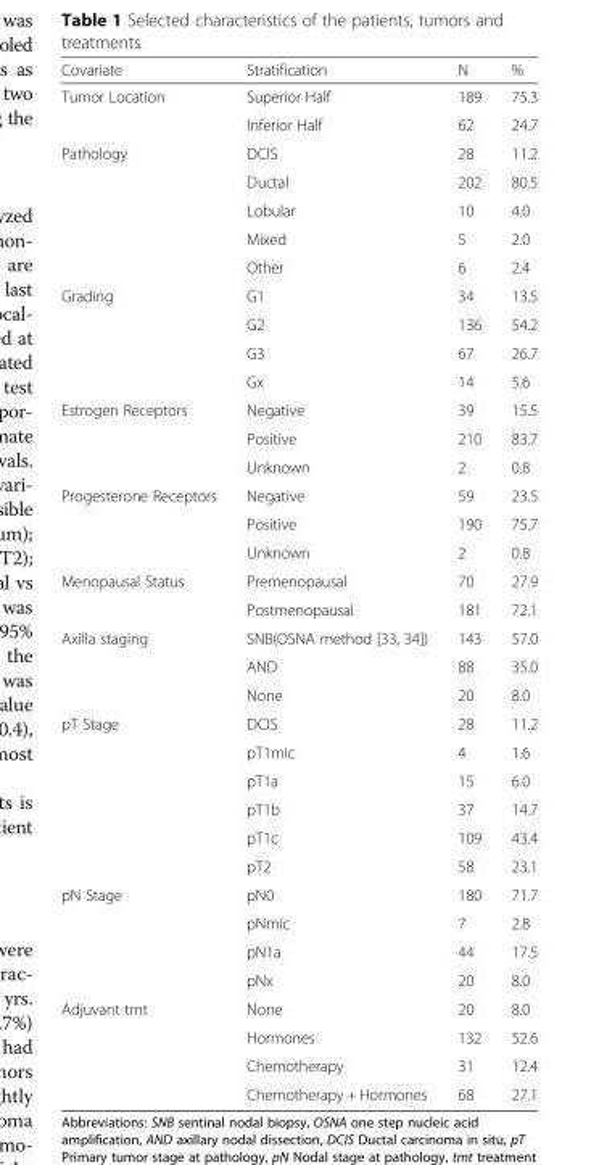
<table><thead><tr><td>Covariate</td><td>Stratification</td><td>N</td><td>%</td></tr></thead><tbody><tr><td rowspan="2">Tumor Location</td><td>Superior Half</td><td>189</td><td>75.3</td></tr><tr><td>Inferior Half</td><td>62</td><td>24.7</td></tr><tr><td rowspan="5">Pathology</td><td>DCIS</td><td>28</td><td>11.2</td></tr><tr><td>Ductal</td><td>202</td><td>80.5</td></tr><tr><td>Lobular</td><td>10</td><td>4.0</td></tr><tr><td>Mixed</td><td>5</td><td>2.0</td></tr><tr><td>Other</td><td>6</td><td>2.4</td></tr><tr><td rowspan="4">Grading</td><td>G1</td><td>34</td><td>13.5</td></tr><tr><td>G2</td><td>136</td><td>54.2</td></tr><tr><td>G3</td><td>67</td><td>26.7</td></tr><tr><td>Gx</td><td>14</td><td>5.6</td></tr><tr><td rowspan="3">Estrogen Receptors</td><td>Negative</td><td>39</td><td>15.5</td></tr><tr><td>Positive</td><td>210</td><td>83.7</td></tr><tr><td>Unknown</td><td>2</td><td>0.8</td></tr><tr><td rowspan="3">Progesterone Receptors</td><td>Negative</td><td>59</td><td>23.5</td></tr><tr><td>Positive</td><td>190</td><td>75.7</td></tr><tr><td>Unknown</td><td>2</td><td>0.8</td></tr><tr><td rowspan="2">Menopausal Status</td><td>Premenopausal</td><td>70</td><td>27.9</td></tr><tr><td>Postmenopausal</td><td>181</td><td>72.1</td></tr><tr><td rowspan="3">Axilla staging</td><td>SNB(OSNA method [33, 34])</td><td>143</td><td>57.0</td></tr><tr><td>AND</td><td>88</td><td>35.0</td></tr><tr><td>None</td><td>20</td><td>8.0</td></tr><tr><td rowspan="6">pT Stage</td><td>DCIS</td><td>28</td><td>11.2</td></tr><tr><td>pT1mic</td><td>4</td><td>1.6</td></tr><tr><td>pT1a</td><td>15</td><td>6.0</td></tr><tr><td>pT1b</td><td>37</td><td>14.7</td></tr><tr><td>pT1c</td><td>109</td><td>43.4</td></tr><tr><td>pT2</td><td>58</td><td>23.1</td></tr><tr><td rowspan="4">pN Stage</td><td>pN0</td><td>180</td><td>71.7</td></tr><tr><td>pNmic</td><td>7</td><td>2.8</td></tr><tr><td>pN1a</td><td>44</td><td>17.5</td></tr><tr><td>pNx</td><td>20</td><td>8.0</td></tr><tr><td rowspan="4">Adjuvant tmt</td><td>None</td><td>20</td><td>8.0</td></tr><tr><td>Hormones</td><td>132</td><td>52.6</td></tr><tr><td>Chemotherapy</td><td>31</td><td>12.4</td></tr><tr><td>Chemotherapy + Hormones</td><td>68</td><td>27.1</td></tr></tbody></table>